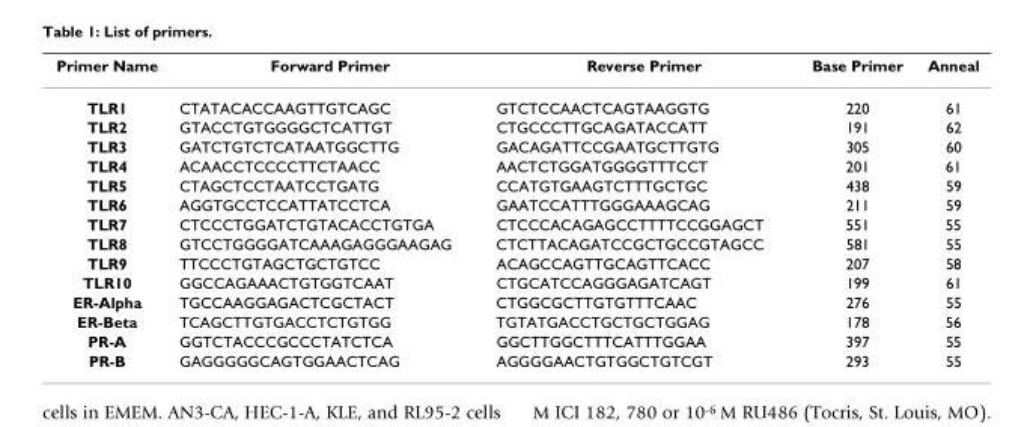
<table><thead><tr><td>Primer Name</td><td>Forward Primer</td><td>Reverse Primer</td><td>Base Primer</td><td>Anneal</td></tr></thead><tbody><tr><td>TLR1</td><td>CTATACACCAAGTTGTCAGC</td><td>GTCTCCAACTCAGTAAGGTG</td><td>220</td><td>61</td></tr><tr><td>TLR2</td><td>GTACCTGTGGGGCTCATTGT</td><td>CTGCCCTTGCAGATACCATT</td><td>191</td><td>62</td></tr><tr><td>TLR3</td><td>GATCTGTCTCATAATGGCTTG</td><td>GACAGATTCCGAATGCTTGTG</td><td>305</td><td>60</td></tr><tr><td>TLR4</td><td>ACAACCTCCCCTTCTAACC</td><td>AACTCTGGATGGGGTTTCCT</td><td>201</td><td>61</td></tr><tr><td>TLR5</td><td>CTAGCTCCTAATCCTGATG</td><td>CCATGTGAAGTCTTTGCTGC</td><td>438</td><td>59</td></tr><tr><td>TLR6</td><td>AGGTGCCTCCATTATCCTCA</td><td>GAATCCATTTGGGAAAGCAG</td><td>211</td><td>59</td></tr><tr><td>TLR7</td><td>CTCCCTGGATCTGTACACCTGTGA</td><td>CTCCCACAGAGCCTTTTCCGGAGCT</td><td>551</td><td>55</td></tr><tr><td>TLR8</td><td>GTCCTGGGGATCAAAGAGGGAAGAG</td><td>CTCTTACAGATCCGCTGCCGTAGCC</td><td>581</td><td>55</td></tr><tr><td>TLR9</td><td>TTCCCTGTAGCTGCTGTCC</td><td>ACAGCCAGTTGCAGTTCACC</td><td>207</td><td>58</td></tr><tr><td>TLR10</td><td>GGCCAGAAACTGTGGTCAAT</td><td>CTGCATCCAGGGAGATCAGT</td><td>199</td><td>61</td></tr><tr><td>ER-Alpha</td><td>TGCCAAGGAGACTCGCTACT</td><td>CTGGCGCTTGTGTTTCAAC</td><td>276</td><td>55</td></tr><tr><td>ER-Beta</td><td>TCAGCTTGTGACCTCTGTGG</td><td>TGTATGACCTGCTGCTGGAG</td><td>178</td><td>56</td></tr><tr><td>PR-A</td><td>GGTCTACCCGCCCTATCTCA</td><td>GGCTTGGCTTTCATTTGGAA</td><td>397</td><td>55</td></tr><tr><td>PR-B</td><td>GAGGGGGCAGTGGAACTCAG</td><td>AGGGGAACTGTGGCTGTCGT</td><td>293</td><td>55</td></tr></tbody></table>